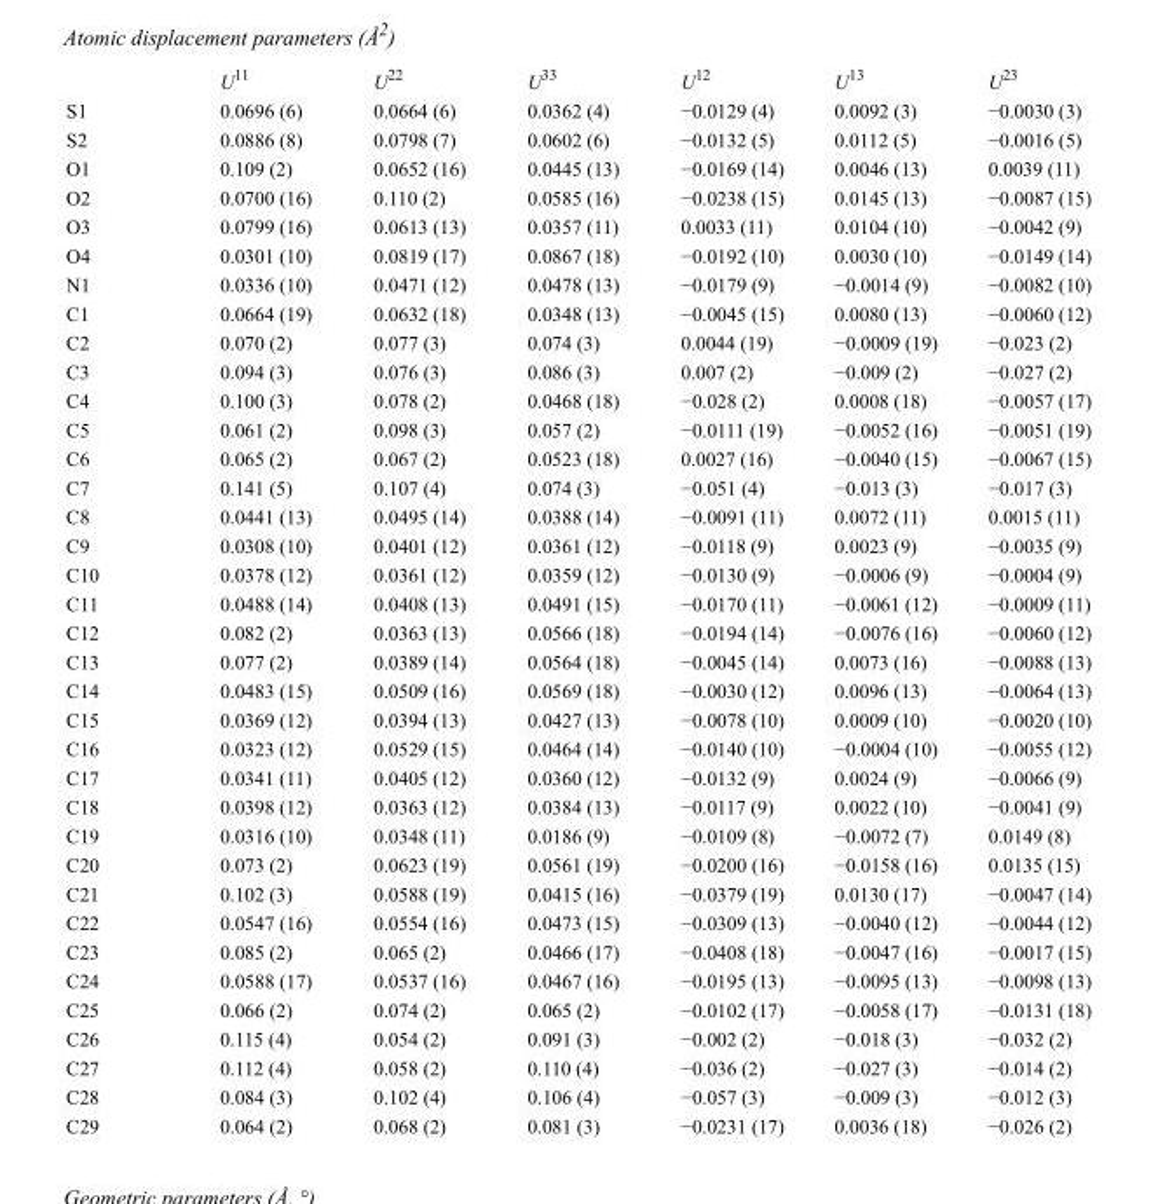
<table><thead><tr><td></td><td>U<sup>11</sup></td><td>U<sup>22</sup></td><td>U<sup>33</sup></td><td>U<sup>12</sup></td><td>U<sup>13</sup></td><td>U<sup>23</sup></td></tr></thead><tbody><tr><td>S1</td><td>0.0696 (6)</td><td>0.0664 (6)</td><td>0.0362 (4)</td><td>−0.0129 (4)</td><td>0.0092 (3)</td><td>−0.0030 (3)</td></tr><tr><td>S2</td><td>0.0886 (8)</td><td>0.0798 (7)</td><td>0.0602 (6)</td><td>−0.0132 (5)</td><td>0.0112 (5)</td><td>−0.0016 (5)</td></tr><tr><td>O1</td><td>0.109 (2)</td><td>0.0652 (16)</td><td>0.0445 (13)</td><td>−0.0169 (14)</td><td>0.0046 (13)</td><td>0.0039 (11)</td></tr><tr><td>O2</td><td>0.0700 (16)</td><td>0.110 (2)</td><td>0.0585 (16)</td><td>−0.0238 (15)</td><td>0.0145 (13)</td><td>−0.0087 (15)</td></tr><tr><td>O3</td><td>0.0799 (16)</td><td>0.0613 (13)</td><td>0.0357 (11)</td><td>0.0033 (11)</td><td>0.0104 (10)</td><td>−0.0042 (9)</td></tr><tr><td>O4</td><td>0.0301 (10)</td><td>0.0819 (17)</td><td>0.0867 (18)</td><td>−0.0192 (10)</td><td>0.0030 (10)</td><td>−0.0149 (14)</td></tr><tr><td>N1</td><td>0.0336 (10)</td><td>0.0471 (12)</td><td>0.0478 (13)</td><td>−0.0179 (9)</td><td>−0.0014 (9)</td><td>−0.0082 (10)</td></tr><tr><td>C1</td><td>0.0664 (19)</td><td>0.0632 (18)</td><td>0.0348 (13)</td><td>−0.0045 (15)</td><td>0.0080 (13)</td><td>−0.0060 (12)</td></tr><tr><td>C2</td><td>0.070 (2)</td><td>0.077 (3)</td><td>0.074 (3)</td><td>0.0044 (19)</td><td>−0.0009 (19)</td><td>−0.023 (2)</td></tr><tr><td>C3</td><td>0.094 (3)</td><td>0.076 (3)</td><td>0.086 (3)</td><td>0.007 (2)</td><td>−0.009 (2)</td><td>−0.027 (2)</td></tr><tr><td>C4</td><td>0.100 (3)</td><td>0.078 (2)</td><td>0.0468 (18)</td><td>−0.028 (2)</td><td>0.0008 (18)</td><td>−0.0057 (17)</td></tr><tr><td>C5</td><td>0.061 (2)</td><td>0.098 (3)</td><td>0.057 (2)</td><td>−0.0111 (19)</td><td>−0.0052 (16)</td><td>−0.0051 (19)</td></tr><tr><td>C6</td><td>0.065 (2)</td><td>0.067 (2)</td><td>0.0523 (18)</td><td>0.0027 (16)</td><td>−0.0040 (15)</td><td>−0.0067 (15)</td></tr><tr><td>C7</td><td>0.141 (5)</td><td>0.107 (4)</td><td>0.074 (3)</td><td>−0.051 (4)</td><td>−0.013 (3)</td><td>−0.017 (3)</td></tr><tr><td>C8</td><td>0.0441 (13)</td><td>0.0495 (14)</td><td>0.0388 (14)</td><td>−0.0091 (11)</td><td>0.0072 (11)</td><td>0.0015 (11)</td></tr><tr><td>C9</td><td>0.0308 (10)</td><td>0.0401 (12)</td><td>0.0361 (12)</td><td>−0.0118 (9)</td><td>0.0023 (9)</td><td>−0.0035 (9)</td></tr><tr><td>C10</td><td>0.0378 (12)</td><td>0.0361 (12)</td><td>0.0359 (12)</td><td>−0.0130 (9)</td><td>−0.0006 (9)</td><td>−0.0004 (9)</td></tr><tr><td>C11</td><td>0.0488 (14)</td><td>0.0408 (13)</td><td>0.0491 (15)</td><td>−0.0170 (11)</td><td>−0.0061 (12)</td><td>−0.0009 (11)</td></tr><tr><td>C12</td><td>0.082 (2)</td><td>0.0363 (13)</td><td>0.0566 (18)</td><td>−0.0194 (14)</td><td>−0.0076 (16)</td><td>−0.0060 (12)</td></tr><tr><td>C13</td><td>0.077 (2)</td><td>0.0389 (14)</td><td>0.0564 (18)</td><td>−0.0045 (14)</td><td>0.0073 (16)</td><td>−0.0088 (13)</td></tr><tr><td>C14</td><td>0.0483 (15)</td><td>0.0509 (16)</td><td>0.0569 (18)</td><td>−0.0030 (12)</td><td>0.0096 (13)</td><td>−0.0064 (13)</td></tr><tr><td>C15</td><td>0.0369 (12)</td><td>0.0394 (13)</td><td>0.0427 (13)</td><td>−0.0078 (10)</td><td>0.0009 (10)</td><td>−0.0020 (10)</td></tr><tr><td>C16</td><td>0.0323 (12)</td><td>0.0529 (15)</td><td>0.0464 (14)</td><td>−0.0140 (10)</td><td>−0.0004 (10)</td><td>−0.0055 (12)</td></tr><tr><td>C17</td><td>0.0341 (11)</td><td>0.0405 (12)</td><td>0.0360 (12)</td><td>−0.0132 (9)</td><td>0.0024 (9)</td><td>−0.0066 (9)</td></tr><tr><td>C18</td><td>0.0398 (12)</td><td>0.0363 (12)</td><td>0.0384 (13)</td><td>−0.0117 (9)</td><td>0.0022 (10)</td><td>−0.0041 (9)</td></tr><tr><td>C19</td><td>0.0316 (10)</td><td>0.0348 (11)</td><td>0.0186 (9)</td><td>−0.0109 (8)</td><td>−0.0072 (7)</td><td>0.0149 (8)</td></tr><tr><td>C20</td><td>0.073 (2)</td><td>0.0623 (19)</td><td>0.0561 (19)</td><td>−0.0200 (16)</td><td>−0.0158 (16)</td><td>0.0135 (15)</td></tr><tr><td>C21</td><td>0.102 (3)</td><td>0.0588 (19)</td><td>0.0415 (16)</td><td>−0.0379 (19)</td><td>0.0130 (17)</td><td>−0.0047 (14)</td></tr><tr><td>C22</td><td>0.0547 (16)</td><td>0.0554 (16)</td><td>0.0473 (15)</td><td>−0.0309 (13)</td><td>−0.0040 (12)</td><td>−0.0044 (12)</td></tr><tr><td>C23</td><td>0.085 (2)</td><td>0.065 (2)</td><td>0.0466 (17)</td><td>−0.0408 (18)</td><td>−0.0047 (16)</td><td>−0.0017 (15)</td></tr><tr><td>C24</td><td>0.0588 (17)</td><td>0.0537 (16)</td><td>0.0467 (16)</td><td>−0.0195 (13)</td><td>−0.0095 (13)</td><td>−0.0098 (13)</td></tr><tr><td>C25</td><td>0.066 (2)</td><td>0.074 (2)</td><td>0.065 (2)</td><td>−0.0102 (17)</td><td>−0.0058 (17)</td><td>−0.0131 (18)</td></tr><tr><td>C26</td><td>0.115 (4)</td><td>0.054 (2)</td><td>0.091 (3)</td><td>−0.002 (2)</td><td>−0.018 (3)</td><td>−0.032 (2)</td></tr><tr><td>C27</td><td>0.112 (4)</td><td>0.058 (2)</td><td>0.110 (4)</td><td>−0.036 (2)</td><td>−0.027 (3)</td><td>−0.014 (2)</td></tr><tr><td>C28</td><td>0.084 (3)</td><td>0.102 (4)</td><td>0.106 (4)</td><td>−0.057 (3)</td><td>−0.009 (3)</td><td>−0.012 (3)</td></tr><tr><td>C29</td><td>0.064 (2)</td><td>0.068 (2)</td><td>0.081 (3)</td><td>−0.0231 (17)</td><td>0.0036 (18)</td><td>−0.026 (2)</td></tr></tbody></table>